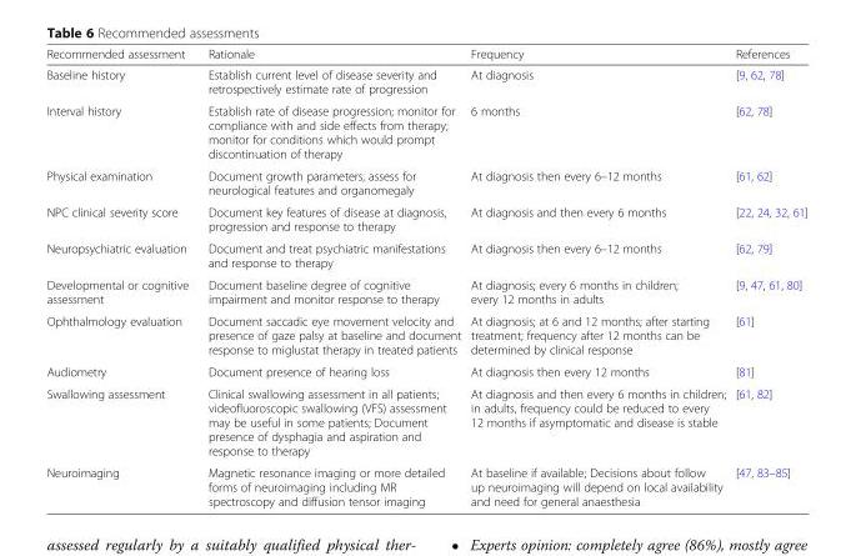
<table><thead><tr><td>Recommended assessment</td><td>Rationale</td><td>Frequency</td><td>References</td></tr></thead><tbody><tr><td>Baseline history</td><td>Establish current level of disease severity and retrospectively estimate rate of progression</td><td>At diagnosis</td><td>[9, 62, 78]</td></tr><tr><td>Interval history</td><td>Establish rate of disease progression; monitor for compliance with and side effects from therapy; monitor for conditions which would prompt discontinuation of therapy</td><td>6 months</td><td>[62, 78]</td></tr><tr><td>Physical examination</td><td>Document growth parameters, assess for neurological features and organomegaly</td><td>At diagnosis then every 6–12 months</td><td>[61, 62]</td></tr><tr><td>NPC clinical severity score</td><td>Document key features of disease at diagnosis, progression and response to therapy</td><td>At diagnosis and then every 6 months</td><td>[22, 24, 32, 61]</td></tr><tr><td>Neuropsychiatric evaluation</td><td>Document and treat psychiatric manifestations and response to therapy</td><td>At diagnosis then every 6–12 months</td><td>[62, 79]</td></tr><tr><td>Developmental or cognitive assessment</td><td>Document baseline degree of cognitive impairment and monitor response to therapy</td><td>At diagnosis; every 6 months in children; every 12 months in adults</td><td>[9, 47, 61, 80]</td></tr><tr><td>Ophthalmology evaluation</td><td>Document saccadic eye movement velocity and presence of gaze palsy at baseline and document response to miglustat therapy in treated patients</td><td>At diagnosis; at 6 and 12 months; after starting treatment; frequency after 12 months can be determined by clinical response</td><td>[61]</td></tr><tr><td>Audiometry</td><td>Document presence of hearing loss</td><td>At diagnosis then every 12 months</td><td>[81]</td></tr><tr><td>Swallowing assessment</td><td>Clinical swallowing assessment in all patients; videofluoroscopic swallowing (VFS) assessment may be useful in some patients; Document presence of dysphagia and aspiration and response to therapy</td><td>At diagnosis and then every 6 months in children; in adults, frequency could be reduced to every 12 months if asymptomatic and disease is stable</td><td>[61, 82]</td></tr><tr><td>Neuroimaging</td><td>Magnetic resonance imaging or more detailed forms of neuroimaging including MR spectroscopy and diffusion tensor imaging</td><td>At baseline if available; Decisions about follow up neuroimaging will depend on local availability and need for general anaesthesia</td><td>[47, 83–85]</td></tr></tbody></table>